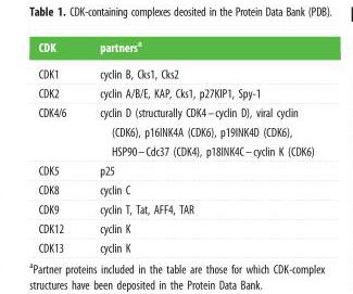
<table><thead><tr><td>CDK</td><td>partners<sup>a</sup></td></tr></thead><tbody><tr><td>CDK1</td><td>cyclin B, Cks1, Cks2</td></tr><tr><td>CDK2</td><td>cyclin A/B/E, KAP, Cks1, p27KIP1, Spy-1</td></tr><tr><td>CDK4/6</td><td>cyclin D (structurally CDK4–cyclin D), viral cyclin (CDK6), p16INK4A (CDK6), p19INK4D (CDK6), HSP90–Cdc37 (CDK4), p18INK4C–cyclin K (CDK6)</td></tr><tr><td>CDK5</td><td>p25</td></tr><tr><td>CDK8</td><td>cyclin C</td></tr><tr><td>CDK9</td><td>cyclin T, Tat, AFF4, TAR</td></tr><tr><td>CDK12</td><td>cyclin K</td></tr><tr><td>CDK13</td><td>cyclin K</td></tr></tbody></table>